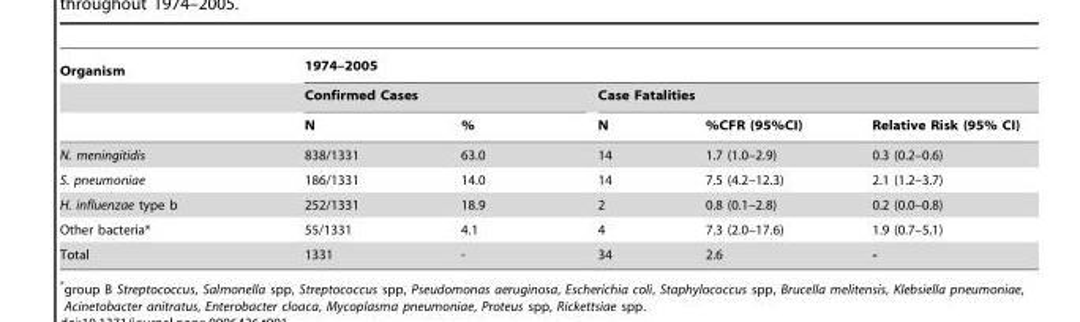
<table><thead><tr><td rowspan="3">Organism</td><td colspan="5">1974–2005</td></tr><tr><td colspan="2">Confirmed Cases</td><td colspan="3">Case Fatalities</td></tr><tr><td>N</td><td>%</td><td>N</td><td>%CFR (95%CI)</td><td>Relative Risk (95% CI)</td></tr></thead><tbody><tr><td>N. meningitidis</td><td>838/1331</td><td>63.0</td><td>14</td><td>1.7 (1.0–2.9)</td><td>0.3 (0.2–0.6)</td></tr><tr><td>S. pneumoniae</td><td>186/1331</td><td>14.0</td><td>14</td><td>7.5 (4.2–12.3)</td><td>2.1 (1.2–3.7)</td></tr><tr><td>H. influenzae type b</td><td>252/1331</td><td>18.9</td><td>2</td><td>0.8 (0.1–2.8)</td><td>0.2 (0.0–0.8)</td></tr><tr><td>Other bacteria*</td><td>55/1331</td><td>4.1</td><td>4</td><td>7.3 (2.0–17.6)</td><td>1.9 (0.7–5.1)</td></tr><tr><td>Total</td><td>1331</td><td>-</td><td>34</td><td>2.6</td><td>-</td></tr></tbody></table>